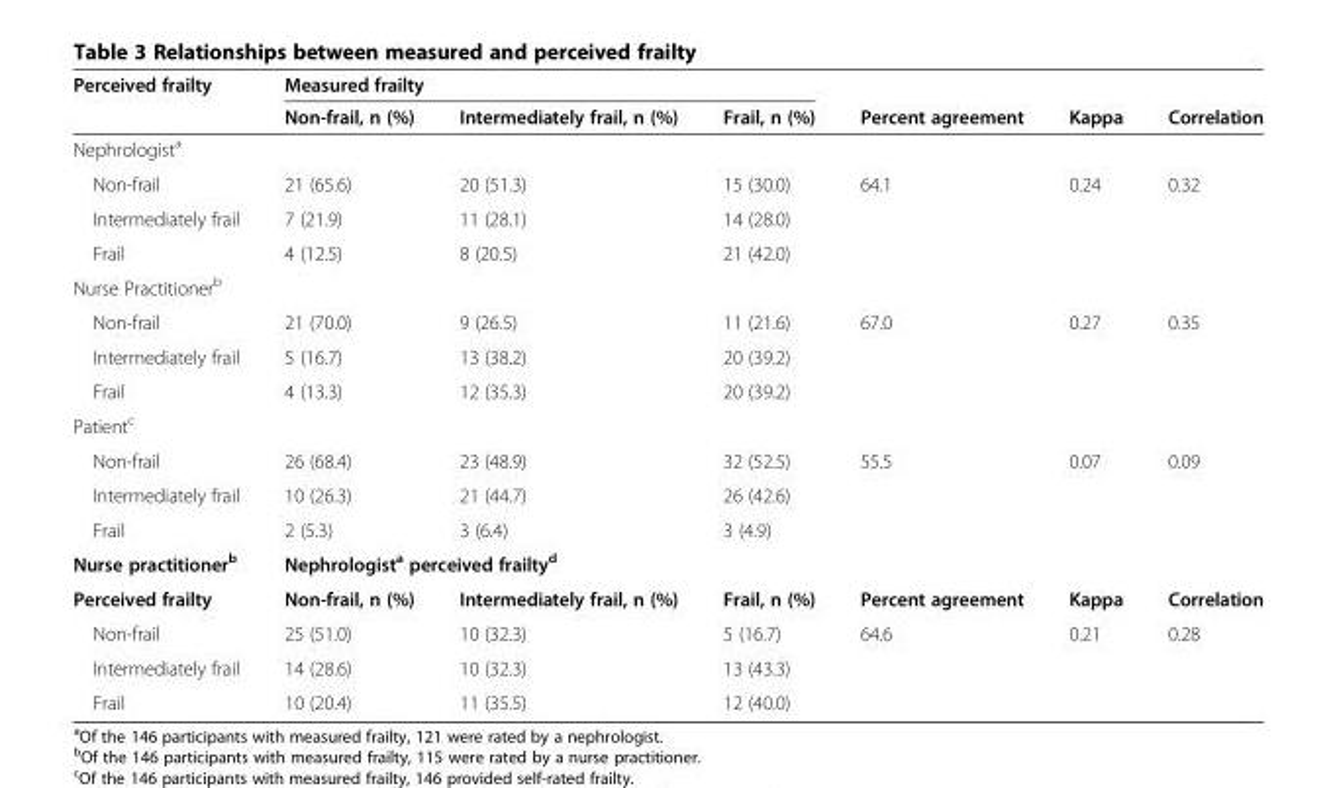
<table><thead><tr><td rowspan="2">Perceived frailty</td><td colspan="3">Measured frailty</td><td rowspan="2">Percent agreement</td><td rowspan="2">Kappa</td><td rowspan="2">Correlation</td></tr><tr><td>Non-frail, n (%)</td><td>Intermediately frail, n (%)</td><td>Frail, n (%)</td></tr></thead><tbody><tr><td colspan="7">Nephrologist<sup>a</sup></td></tr><tr><td>Non-frail</td><td>21 (65.6)</td><td>20 (51.3)</td><td>15 (30.0)</td><td>64.1</td><td>0.24</td><td>0.32</td></tr><tr><td>Intermediately frail</td><td>7 (21.9)</td><td>11 (28.1)</td><td>14 (28.0)</td><td></td><td></td><td></td></tr><tr><td>Frail</td><td>4 (12.5)</td><td>8 (20.5)</td><td>21 (42.0)</td><td></td><td></td><td></td></tr><tr><td colspan="7">Nurse Practitioner<sup>b</sup></td></tr><tr><td>Non-frail</td><td>21 (70.0)</td><td>9 (26.5)</td><td>11 (21.6)</td><td>67.0</td><td>0.27</td><td>0.35</td></tr><tr><td>Intermediately frail</td><td>5 (16.7)</td><td>13 (38.2)</td><td>20 (39.2)</td><td></td><td></td><td></td></tr><tr><td>Frail</td><td>4 (13.3)</td><td>12 (35.3)</td><td>20 (39.2)</td><td></td><td></td><td></td></tr><tr><td colspan="7">Patient<sup>c</sup></td></tr><tr><td>Non-frail</td><td>26 (68.4)</td><td>23 (48.9)</td><td>32 (52.5)</td><td>55.5</td><td>0.07</td><td>0.09</td></tr><tr><td>Intermediately frail</td><td>10 (26.3)</td><td>21 (44.7)</td><td>26 (42.6)</td><td></td><td></td><td></td></tr><tr><td>Frail</td><td>2 (5.3)</td><td>3 (6.4)</td><td>3 (4.9)</td><td></td><td></td><td></td></tr><tr><td>Nurse practitioner<sup>b</sup></td><td colspan="3">Nephrologist<sup>a</sup> perceived frailty<sup>d</sup></td><td></td><td></td><td></td></tr><tr><td>Perceived frailty</td><td>Non-frail, n (%)</td><td>Intermediately frail, n (%)</td><td>Frail, n (%)</td><td>Percent agreement</td><td>Kappa</td><td>Correlation</td></tr><tr><td>Non-frail</td><td>25 (51.0)</td><td>10 (32.3)</td><td>5 (16.7)</td><td>64.6</td><td>0.21</td><td>0.28</td></tr><tr><td>Intermediately frail</td><td>14 (28.6)</td><td>10 (32.3)</td><td>13 (43.3)</td><td></td><td></td><td></td></tr><tr><td>Frail</td><td>10 (20.4)</td><td>11 (35.5)</td><td>12 (40.0)</td><td></td><td></td><td></td></tr></tbody></table>